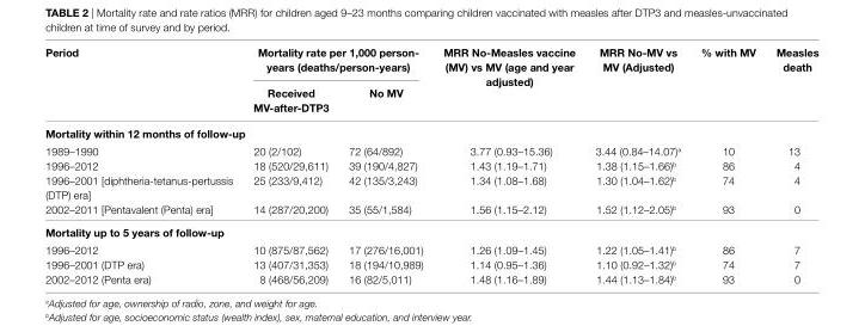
<table><thead><tr><td rowspan="2">Period</td><td colspan="2">Mortality rate per 1,000 person- years (deaths/person-years)</td><td rowspan="2">Mrr no-Measles vaccine (MV) vs MV (age and year adjusted)</td><td rowspan="2">Mrr no-MV vs MV (adjusted)</td><td rowspan="2">% with MV</td><td rowspan="2">Measles death</td></tr><tr><td>received MV-after-DTP3</td><td>no MV</td></tr></thead><tbody><tr><td colspan="7">Mortality within 12 months of follow-up</td></tr><tr><td>1989–1990</td><td>20 (2/102)</td><td>72 (64/892)</td><td>3.77 (0.93–15.36)</td><td>3.44 (0.84–14.07)<sup>a</sup></td><td>10</td><td>13</td></tr><tr><td>1996–2012</td><td>18 (520/29,611)</td><td>39 (190/4,827)</td><td>1.43 (1.19–1.71)</td><td>1.38 (1.15–1.66)<sup>b</sup></td><td>86</td><td>4</td></tr><tr><td>1996–2001 [diphtheria-tetanus-pertussis (DTP) era]</td><td>25 (233/9,412)</td><td>42 (135/3,243)</td><td>1.34 (1.08–1.68)</td><td>1.30 (1.04–1.62)<sup>b</sup></td><td>74</td><td>4</td></tr><tr><td>2002–2011 [Pentavalent (Penta) era]</td><td>14 (287/20,200)</td><td>35 (55/1,584)</td><td>1.56 (1.15–2.12)</td><td>1.52 (1.12–2.05)<sup>b</sup></td><td>93</td><td>0</td></tr><tr><td colspan="7">Mortality up to 5 years of follow-up</td></tr><tr><td>1996–2012</td><td>10 (875/87,562)</td><td>17 (276/16,001)</td><td>1.26 (1.09–1.45)</td><td>1.22 (1.05–1.41)<sup>b</sup></td><td>86</td><td>7</td></tr><tr><td>1996–2001 (DTP era)</td><td>13 (407/31,353)</td><td>18 (194/10,989)</td><td>1.14 (0.95–1.36)</td><td>1.10 (0.92–1.32)<sup>b</sup></td><td>74</td><td>7</td></tr><tr><td>2002–2012 (Penta era)</td><td>8 (468/56,209)</td><td>16 (82/5,011)</td><td>1.48 (1.16–1.89)</td><td>1.44 (1.13–1.84)<sup>b</sup></td><td>93</td><td>0</td></tr></tbody></table>